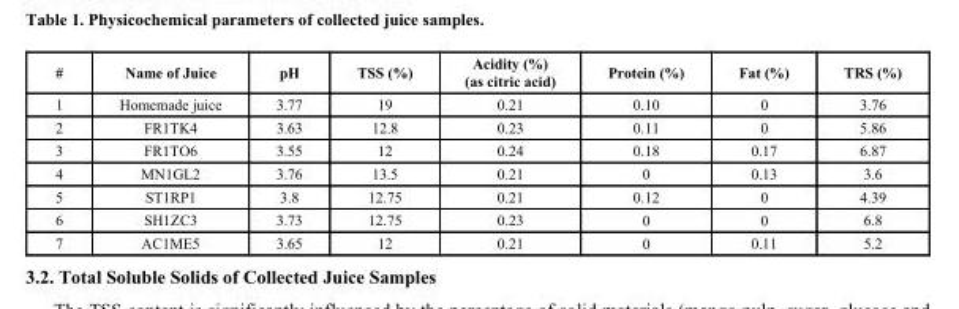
<table><thead><tr><td>#</td><td>Name of Juice</td><td>pH</td><td>TSS (%)</td><td>Acidity (%) (as citric acid)</td><td>Protein (%)</td><td>Fat (%)</td><td>TRS (%)</td></tr></thead><tbody><tr><td>1</td><td>Homemade juice</td><td>3.77</td><td>19</td><td>0.21</td><td>0.10</td><td>0</td><td>3.76</td></tr><tr><td>2</td><td>FR1TK4</td><td>3.63</td><td>12.8</td><td>0.23</td><td>0.11</td><td>0</td><td>5.86</td></tr><tr><td>3</td><td>FR1TO6</td><td>3.55</td><td>12</td><td>0.24</td><td>0.18</td><td>0.17</td><td>6.87</td></tr><tr><td>4</td><td>MN1GL2</td><td>3.76</td><td>13.5</td><td>0.21</td><td>0</td><td>0.13</td><td>3.6</td></tr><tr><td>5</td><td>ST1RP1</td><td>3.8</td><td>12.75</td><td>0.21</td><td>0.12</td><td>0</td><td>4.39</td></tr><tr><td>6</td><td>SH1ZC3</td><td>3.73</td><td>12.75</td><td>0.23</td><td>0</td><td>0</td><td>6.8</td></tr><tr><td>7</td><td>AC1ME5</td><td>3.65</td><td>12</td><td>0.21</td><td>0</td><td>0.11</td><td>5.2</td></tr></tbody></table>